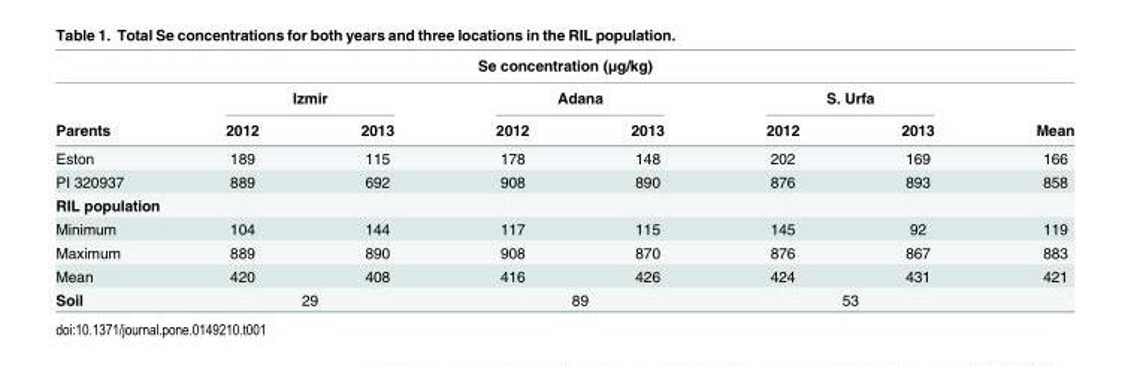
<table><thead><tr><td colspan="8">Se concentration (μg/kg)</td></tr><tr><td rowspan="2">Parents</td><td colspan="2">Izmir</td><td colspan="2">Adana</td><td colspan="2">S. Urfa</td><td rowspan="2">Mean</td></tr><tr><td>2012</td><td>2013</td><td>2012</td><td>2013</td><td>2012</td><td>2013</td></tr></thead><tbody><tr><td>Eston</td><td>189</td><td>115</td><td>178</td><td>148</td><td>202</td><td>169</td><td>166</td></tr><tr><td>PI 320937</td><td>889</td><td>692</td><td>908</td><td>890</td><td>876</td><td>893</td><td>858</td></tr><tr><td colspan="8">RIL population</td></tr><tr><td>Minimum</td><td>104</td><td>144</td><td>117</td><td>115</td><td>145</td><td>92</td><td>119</td></tr><tr><td>Maximum</td><td>889</td><td>890</td><td>908</td><td>870</td><td>876</td><td>867</td><td>883</td></tr><tr><td>Mean</td><td>420</td><td>408</td><td>416</td><td>426</td><td>424</td><td>431</td><td>421</td></tr><tr><td>Soil</td><td colspan="2">29</td><td colspan="2">89</td><td colspan="2">53</td><td></td></tr></tbody></table>